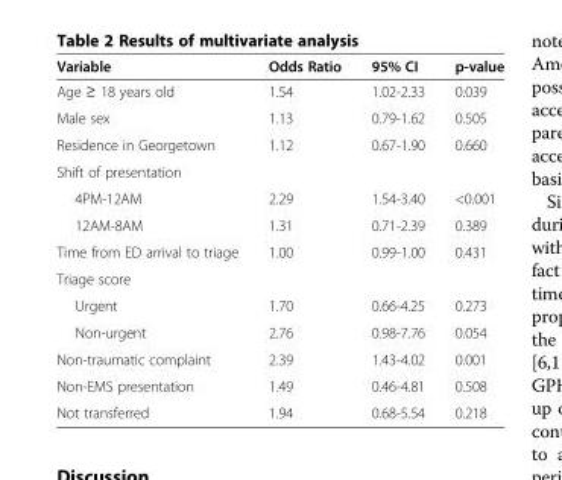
<table><thead><tr><td>Variable</td><td>Odds Ratio</td><td>95% CI</td><td>p-value</td></tr></thead><tbody><tr><td>Age ≥ 18 years old</td><td>1.54</td><td>1.02-2.33</td><td>0.039</td></tr><tr><td>Male sex</td><td>1.13</td><td>0.79-1.62</td><td>0.505</td></tr><tr><td>Residence in Georgetown</td><td>1.12</td><td>0.67-1.90</td><td>0.660</td></tr><tr><td colspan="4">Shift of presentation</td></tr><tr><td>4PM-12AM</td><td>2.29</td><td>1.54-3.40</td><td>&lt;0.001</td></tr><tr><td>12AM-8AM</td><td>1.31</td><td>0.71-2.39</td><td>0.389</td></tr><tr><td>Time from ED arrival to triage</td><td>1.00</td><td>0.99-1.00</td><td>0.431</td></tr><tr><td colspan="4">Triage score</td></tr><tr><td>Urgent</td><td>1.70</td><td>0.66-4.25</td><td>0.273</td></tr><tr><td>Non-urgent</td><td>2.76</td><td>0.98-7.76</td><td>0.054</td></tr><tr><td>Non-traumatic complaint</td><td>2.39</td><td>1.43-4.02</td><td>0.001</td></tr><tr><td>Non-EMS presentation</td><td>1.49</td><td>0.46-4.81</td><td>0.508</td></tr><tr><td>Not transferred</td><td>1.94</td><td>0.68-5.54</td><td>0.218</td></tr></tbody></table>